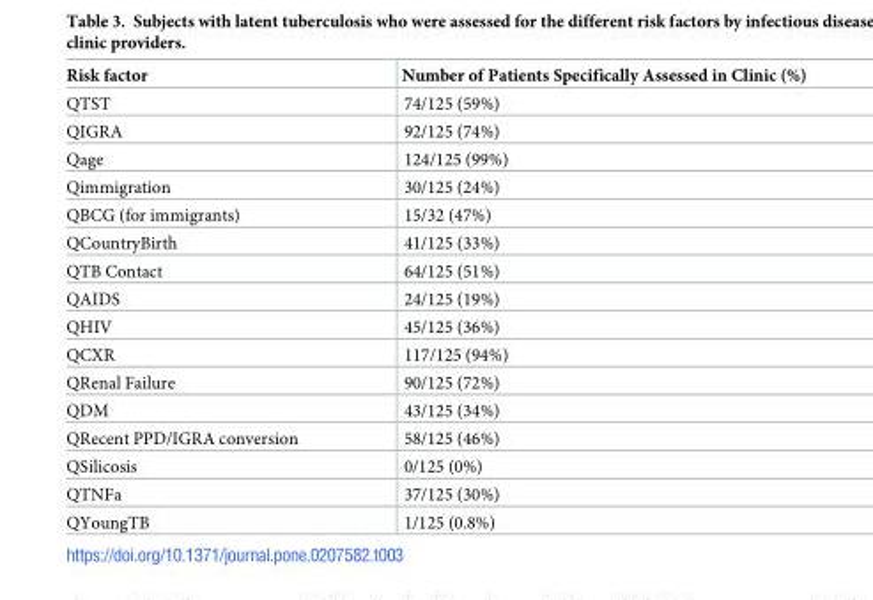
<table><thead><tr><td>Risk factor</td><td>Number of Patients Specifically Assessed in Clinic (%)</td></tr></thead><tbody><tr><td>QTST</td><td>74/125 (59%)</td></tr><tr><td>QIGRA</td><td>92/125 (74%)</td></tr><tr><td>Qage</td><td>124/125 (99%)</td></tr><tr><td>Qimmigration</td><td>30/125 (24%)</td></tr><tr><td>QBCG (for immigrants)</td><td>15/32 (47%)</td></tr><tr><td>QCountryBirth</td><td>41/125 (33%)</td></tr><tr><td>QTB Contact</td><td>64/125 (51%)</td></tr><tr><td>QAIDS</td><td>24/125 (19%)</td></tr><tr><td>QHIV</td><td>45/125 (36%)</td></tr><tr><td>QCXR</td><td>117/125 (94%)</td></tr><tr><td>QRenal Failure</td><td>90/125 (72%)</td></tr><tr><td>QDM</td><td>43/125 (34%)</td></tr><tr><td>QRecent PPD/IGRA conversion</td><td>58/125 (46%)</td></tr><tr><td>QSilicosis</td><td>0/125 (0%)</td></tr><tr><td>QTNFa</td><td>37/125 (30%)</td></tr><tr><td>QYoungTB</td><td>1/125 (0.8%)</td></tr></tbody></table>